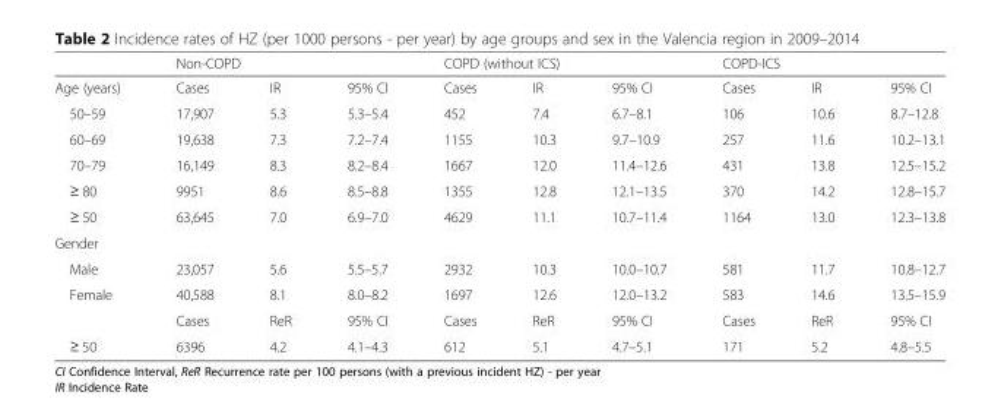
<table><thead><tr><td rowspan="2">Age (years)</td><td colspan="3">Non-COPD</td><td colspan="3">COPD (without ICS)</td><td colspan="3">COPD-ICS</td></tr><tr><td>Cases</td><td>IR</td><td>95% CI</td><td>Cases</td><td>IR</td><td>95% CI</td><td>Cases</td><td>IR</td><td>95% CI</td></tr></thead><tbody><tr><td>50–59</td><td>17,907</td><td>5.3</td><td>5.3–5.4</td><td>452</td><td>7.4</td><td>6.7–8.1</td><td>106</td><td>10.6</td><td>8.7–12.8</td></tr><tr><td>60–69</td><td>19,638</td><td>7.3</td><td>7.2–7.4</td><td>1155</td><td>10.3</td><td>9.7–10.9</td><td>257</td><td>11.6</td><td>10.2–13.1</td></tr><tr><td>70–79</td><td>16,149</td><td>8.3</td><td>8.2–8.4</td><td>1667</td><td>12.0</td><td>11.4–12.6</td><td>431</td><td>13.8</td><td>12.5–15.2</td></tr><tr><td>≥ 80</td><td>9951</td><td>8.6</td><td>8.5–8.8</td><td>1355</td><td>12.8</td><td>12.1–13.5</td><td>370</td><td>14.2</td><td>12.8–15.7</td></tr><tr><td>≥ 50</td><td>63,645</td><td>7.0</td><td>6.9–7.0</td><td>4629</td><td>11.1</td><td>10.7–11.4</td><td>1164</td><td>13.0</td><td>12.3–13.8</td></tr><tr><td colspan="10">Gender</td></tr><tr><td>Male</td><td>23,057</td><td>5.6</td><td>5.5–5.7</td><td>2932</td><td>10.3</td><td>10.0–10.7</td><td>581</td><td>11.7</td><td>10.8–12.7</td></tr><tr><td rowspan="2">Female</td><td>40,588</td><td>8.1</td><td>8.0–8.2</td><td>1697</td><td>12.6</td><td>12.0–13.2</td><td>583</td><td>14.6</td><td>13.5–15.9</td></tr><tr><td>Cases</td><td>ReR</td><td>95% CI</td><td>Cases</td><td>ReR</td><td>95% CI</td><td>Cases</td><td>ReR</td><td>95% CI</td></tr><tr><td>≥ 50</td><td>6396</td><td>4.2</td><td>4.1–4.3</td><td>612</td><td>5.1</td><td>4.7–5.1</td><td>171</td><td>5.2</td><td>4.8–5.5</td></tr></tbody></table>